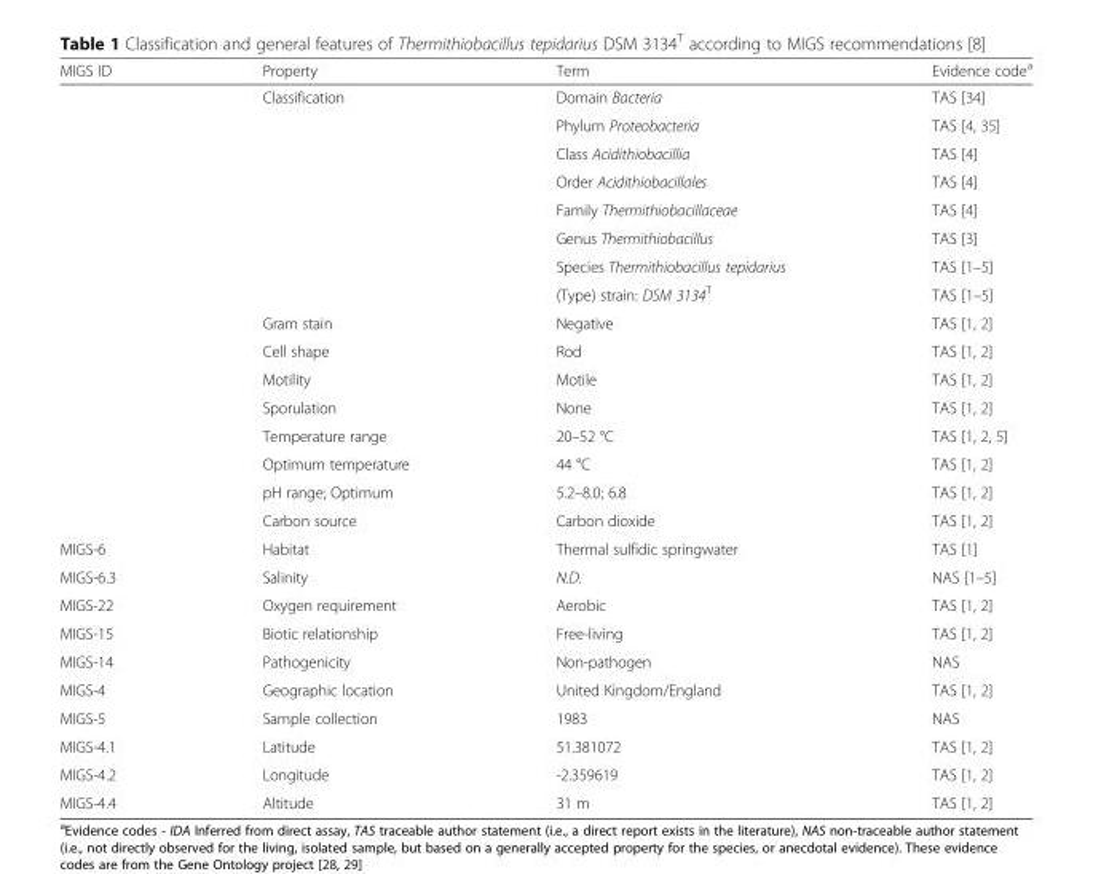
<table><thead><tr><td>MIGS ID</td><td>Property</td><td>Term</td><td>Evidence code<sup>a</sup></td></tr></thead><tbody><tr><td></td><td>Classification</td><td>Domain Bacteria</td><td>TAS [34]</td></tr><tr><td></td><td></td><td>Phylum Proteobacteria</td><td>TAS [4, 35]</td></tr><tr><td></td><td></td><td>Class Acidithiobacillia</td><td>TAS [4]</td></tr><tr><td></td><td></td><td>Order Acidithiobacillales</td><td>TAS [4]</td></tr><tr><td></td><td></td><td>Family Thermithiobacillaceae</td><td>TAS [4]</td></tr><tr><td></td><td></td><td>Genus Thermithiobacillus</td><td>TAS [3]</td></tr><tr><td></td><td></td><td>Species Thermithiobacillus tepidarius</td><td>TAS [1–5]</td></tr><tr><td></td><td></td><td>(Type) strain: DSM 3134<sup>T</sup></td><td>TAS [1–5]</td></tr><tr><td></td><td>Gram stain</td><td>Negative</td><td>TAS [1, 2]</td></tr><tr><td></td><td>Cell shape</td><td>Rod</td><td>TAS [1, 2]</td></tr><tr><td></td><td>Motility</td><td>Motile</td><td>TAS [1, 2]</td></tr><tr><td></td><td>Sporulation</td><td>None</td><td>TAS [1, 2]</td></tr><tr><td></td><td>Temperature range</td><td>20–52 °C</td><td>TAS [1, 2, 5]</td></tr><tr><td></td><td>Optimum temperature</td><td>44 °C</td><td>TAS [1, 2]</td></tr><tr><td></td><td>pH range; Optimum</td><td>5.2–8.0; 6.8</td><td>TAS [1, 2]</td></tr><tr><td></td><td>Carbon source</td><td>Carbon dioxide</td><td>TAS [1, 2]</td></tr><tr><td>MIGS-6</td><td>Habitat</td><td>Thermal sulfidic springwater</td><td>TAS [1]</td></tr><tr><td>MIGS-6.3</td><td>Salinity</td><td>N.D.</td><td>NAS [1–5]</td></tr><tr><td>MIGS-22</td><td>Oxygen requirement</td><td>Aerobic</td><td>TAS [1, 2]</td></tr><tr><td>MIGS-15</td><td>Biotic relationship</td><td>Free-living</td><td>TAS [1, 2]</td></tr><tr><td>MIGS-14</td><td>Pathogenicity</td><td>Non-pathogen</td><td>NAS</td></tr><tr><td>MIGS-4</td><td>Geographic location</td><td>United Kingdom/England</td><td>TAS [1, 2]</td></tr><tr><td>MIGS-5</td><td>Sample collection</td><td>1983</td><td>NAS</td></tr><tr><td>MIGS-4.1</td><td>Latitude</td><td>51.381072</td><td>TAS [1, 2]</td></tr><tr><td>MIGS-4.2</td><td>Longitude</td><td>-2.359619</td><td>TAS [1, 2]</td></tr><tr><td>MIGS-4.4</td><td>Altitude</td><td>31 m</td><td>TAS [1, 2]</td></tr></tbody></table>